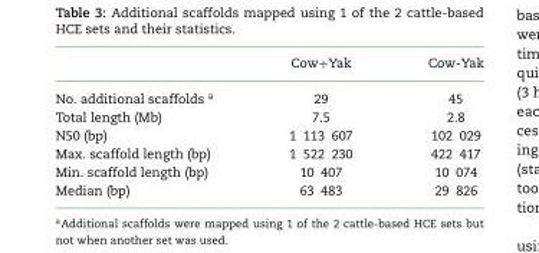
<table><thead><tr><td></td><td>Cow+Yak</td><td>Cow-Yak</td></tr></thead><tbody><tr><td>No. additional scaffolds <sup>a</sup></td><td>29</td><td>45</td></tr><tr><td>Total length (Mb)</td><td>7.5</td><td>2.8</td></tr><tr><td>N50 (bp)</td><td>1 113 607</td><td>102 029</td></tr><tr><td>Max. scaffold length (bp)</td><td>1 522 230</td><td>422 417</td></tr><tr><td>Min. scaffold length (bp)</td><td>10 407</td><td>10 074</td></tr><tr><td>Median (bp)</td><td>63 483</td><td>29 826</td></tr></tbody></table>